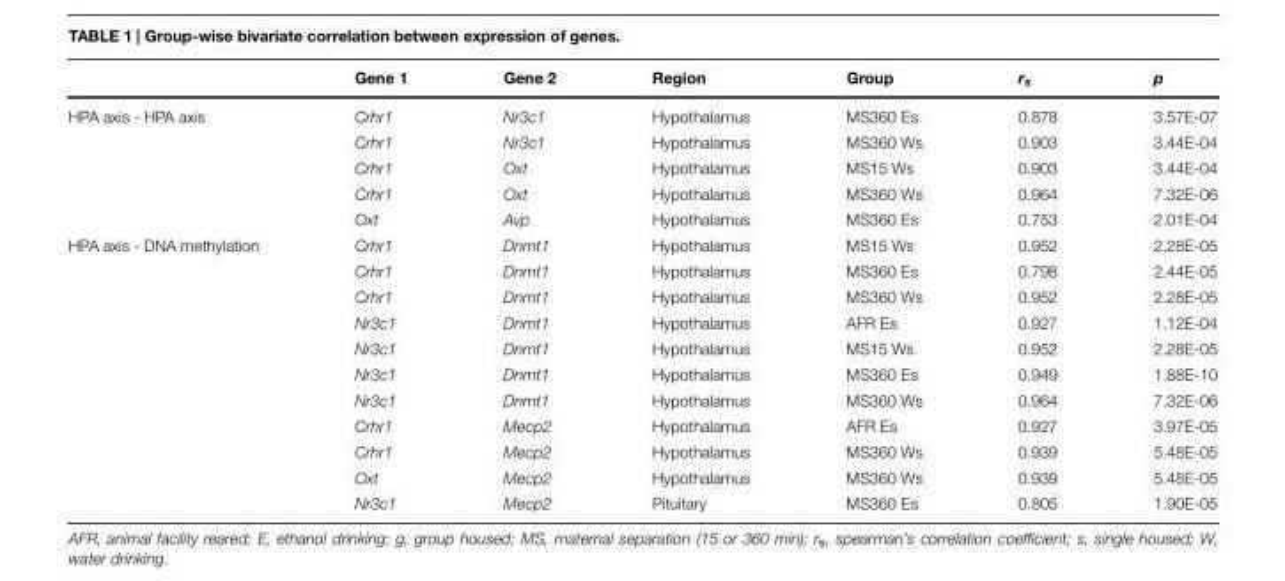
<table><thead><tr><td></td><td>Gene 1</td><td>Gene 2</td><td>Region</td><td>Group</td><td>r<sub>s</sub></td><td>p</td></tr></thead><tbody><tr><td rowspan="5">HPA axis - HPA axis</td><td>Crhr1</td><td>Nr3c1</td><td>Hypothalamus</td><td>MS360 Es</td><td>0.878</td><td>3.57E-07</td></tr><tr><td>Crhr1</td><td>Nr3c1</td><td>Hypothalamus</td><td>MS360 Ws</td><td>0.903</td><td>3.44E-04</td></tr><tr><td>Crhr1</td><td>Oxt</td><td>Hypothalamus</td><td>MS15 Ws</td><td>0.903</td><td>3.44E-04</td></tr><tr><td>Crhr1</td><td>Oxt</td><td>Hypothalamus</td><td>MS360 Ws</td><td>0.964</td><td>7.32E-06</td></tr><tr><td>Oxt</td><td>Avp</td><td>Hypothalamus</td><td>MS360 Es</td><td>0.753</td><td>2.01E-04</td></tr><tr><td rowspan="11">HPA axis - DNA methylation</td><td>Crhr1</td><td>Dnmt1</td><td>Hypothalamus</td><td>MS15 Ws</td><td>0.952</td><td>2.28E-05</td></tr><tr><td>Crhr1</td><td>Dnmt1</td><td>Hypothalamus</td><td>MS360 Es</td><td>0.798</td><td>2.44E-05</td></tr><tr><td>Crhr1</td><td>Dnmt1</td><td>Hypothalamus</td><td>MS360 Ws</td><td>0.952</td><td>2.28E-05</td></tr><tr><td>Nr3c1</td><td>Dnmt1</td><td>Hypothalamus</td><td>AFR Es</td><td>0.927</td><td>1.12E-04</td></tr><tr><td>Nr3c1</td><td>Dnmt1</td><td>Hypothalamus</td><td>MS15 Ws</td><td>0.952</td><td>2.28E-05</td></tr><tr><td>Nr3c1</td><td>Dnmt1</td><td>Hypothalamus</td><td>MS360 Es</td><td>0.949</td><td>1.88E-10</td></tr><tr><td>Nr3c1</td><td>Dnmt1</td><td>Hypothalamus</td><td>MS360 Ws</td><td>0.964</td><td>7.32E-06</td></tr><tr><td>Crhr1</td><td>Mecp2</td><td>Hypothalamus</td><td>AFR Es</td><td>0.927</td><td>3.97E-05</td></tr><tr><td>Crhr1</td><td>Mecp2</td><td>Hypothalamus</td><td>MS360 Ws</td><td>0.939</td><td>5.48E-05</td></tr><tr><td>Oxt</td><td>Mecp2</td><td>Hypothalamus</td><td>MS360 Ws</td><td>0.939</td><td>5.48E-05</td></tr><tr><td>Nr3c1</td><td>Mecp2</td><td>Pituitary</td><td>MS360 Es</td><td>0.805</td><td>1.90E-05</td></tr></tbody></table>